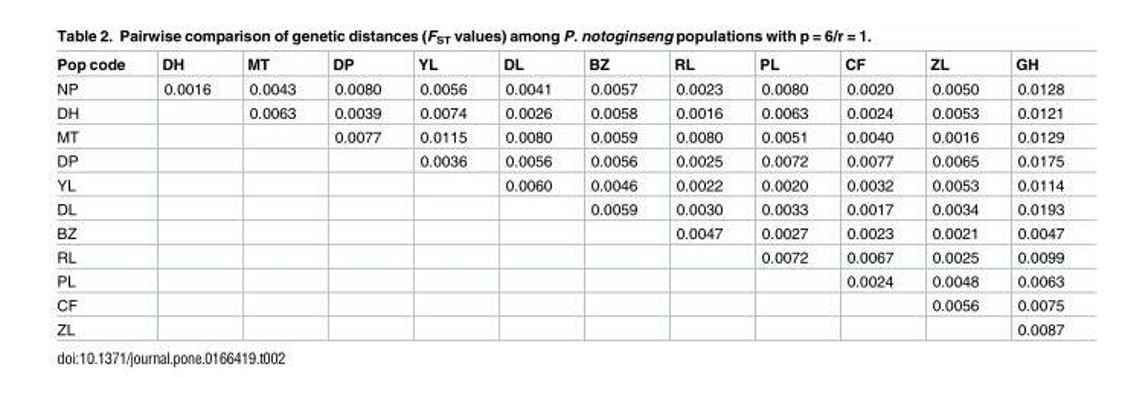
<table><thead><tr><td>Pop code</td><td>DH</td><td>MT</td><td>DP</td><td>YL</td><td>DL</td><td>BZ</td><td>RL</td><td>PL</td><td>CF</td><td>ZL</td><td>GH</td></tr></thead><tbody><tr><td>NP</td><td>0.0016</td><td>0.0043</td><td>0.0080</td><td>0.0056</td><td>0.0041</td><td>0.0057</td><td>0.0023</td><td>0.0080</td><td>0.0020</td><td>0.0050</td><td>0.0128</td></tr><tr><td>DH</td><td></td><td>0.0063</td><td>0.0039</td><td>0.0074</td><td>0.0026</td><td>0.0058</td><td>0.0016</td><td>0.0063</td><td>0.0024</td><td>0.0053</td><td>0.0121</td></tr><tr><td>MT</td><td></td><td></td><td>0.0077</td><td>0.0115</td><td>0.0080</td><td>0.0059</td><td>0.0080</td><td>0.0051</td><td>0.0040</td><td>0.0016</td><td>0.0129</td></tr><tr><td>DP</td><td></td><td></td><td></td><td>0.0036</td><td>0.0056</td><td>0.0056</td><td>0.0025</td><td>0.0072</td><td>0.0077</td><td>0.0065</td><td>0.0175</td></tr><tr><td>YL</td><td></td><td></td><td></td><td></td><td>0.0060</td><td>0.0046</td><td>0.0022</td><td>0.0020</td><td>0.0032</td><td>0.0053</td><td>0.0114</td></tr><tr><td>DL</td><td></td><td></td><td></td><td></td><td></td><td>0.0059</td><td>0.0030</td><td>0.0033</td><td>0.0017</td><td>0.0034</td><td>0.0193</td></tr><tr><td>BZ</td><td></td><td></td><td></td><td></td><td></td><td></td><td>0.0047</td><td>0.0027</td><td>0.0023</td><td>0.0021</td><td>0.0047</td></tr><tr><td>RL</td><td></td><td></td><td></td><td></td><td></td><td></td><td></td><td>0.0072</td><td>0.0067</td><td>0.0025</td><td>0.0099</td></tr><tr><td>PL</td><td></td><td></td><td></td><td></td><td></td><td></td><td></td><td></td><td>0.0024</td><td>0.0048</td><td>0.0063</td></tr><tr><td>CF</td><td></td><td></td><td></td><td></td><td></td><td></td><td></td><td></td><td></td><td>0.0056</td><td>0.0075</td></tr><tr><td>ZL</td><td></td><td></td><td></td><td></td><td></td><td></td><td></td><td></td><td></td><td></td><td>0.0087</td></tr></tbody></table>